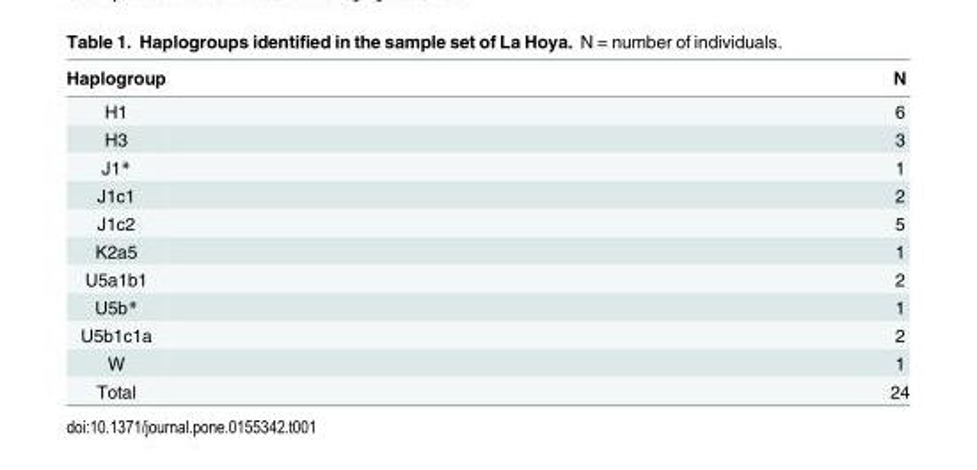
<table><thead><tr><td>Haplogroup</td><td>N</td></tr></thead><tbody><tr><td>H1</td><td>6</td></tr><tr><td>H3</td><td>3</td></tr><tr><td>J1*</td><td>1</td></tr><tr><td>J1c1</td><td>2</td></tr><tr><td>J1c2</td><td>5</td></tr><tr><td>K2a5</td><td>1</td></tr><tr><td>U5a1b1</td><td>2</td></tr><tr><td>U5b*</td><td>1</td></tr><tr><td>U5b1c1a</td><td>2</td></tr><tr><td>W</td><td>1</td></tr><tr><td>Total</td><td>24</td></tr></tbody></table>